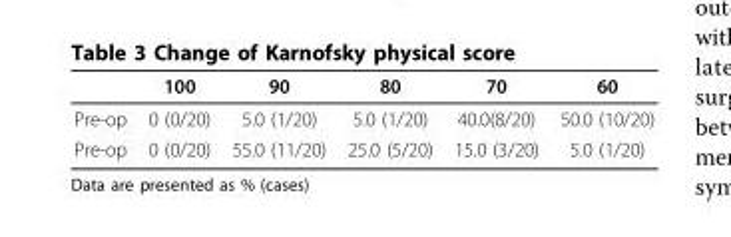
<table><thead><tr><td></td><td>100</td><td>90</td><td>80</td><td>70</td><td>60</td></tr></thead><tbody><tr><td>Pre-op</td><td>0 (0/20)</td><td>5.0 (1/20)</td><td>5.0 (1/20)</td><td>40.0(8/20)</td><td>50.0 (10/20)</td></tr><tr><td>Pre-op</td><td>0 (0/20)</td><td>55.0 (11/20)</td><td>25.0 (5/20)</td><td>15.0 (3/20)</td><td>5.0 (1/20)</td></tr></tbody></table>